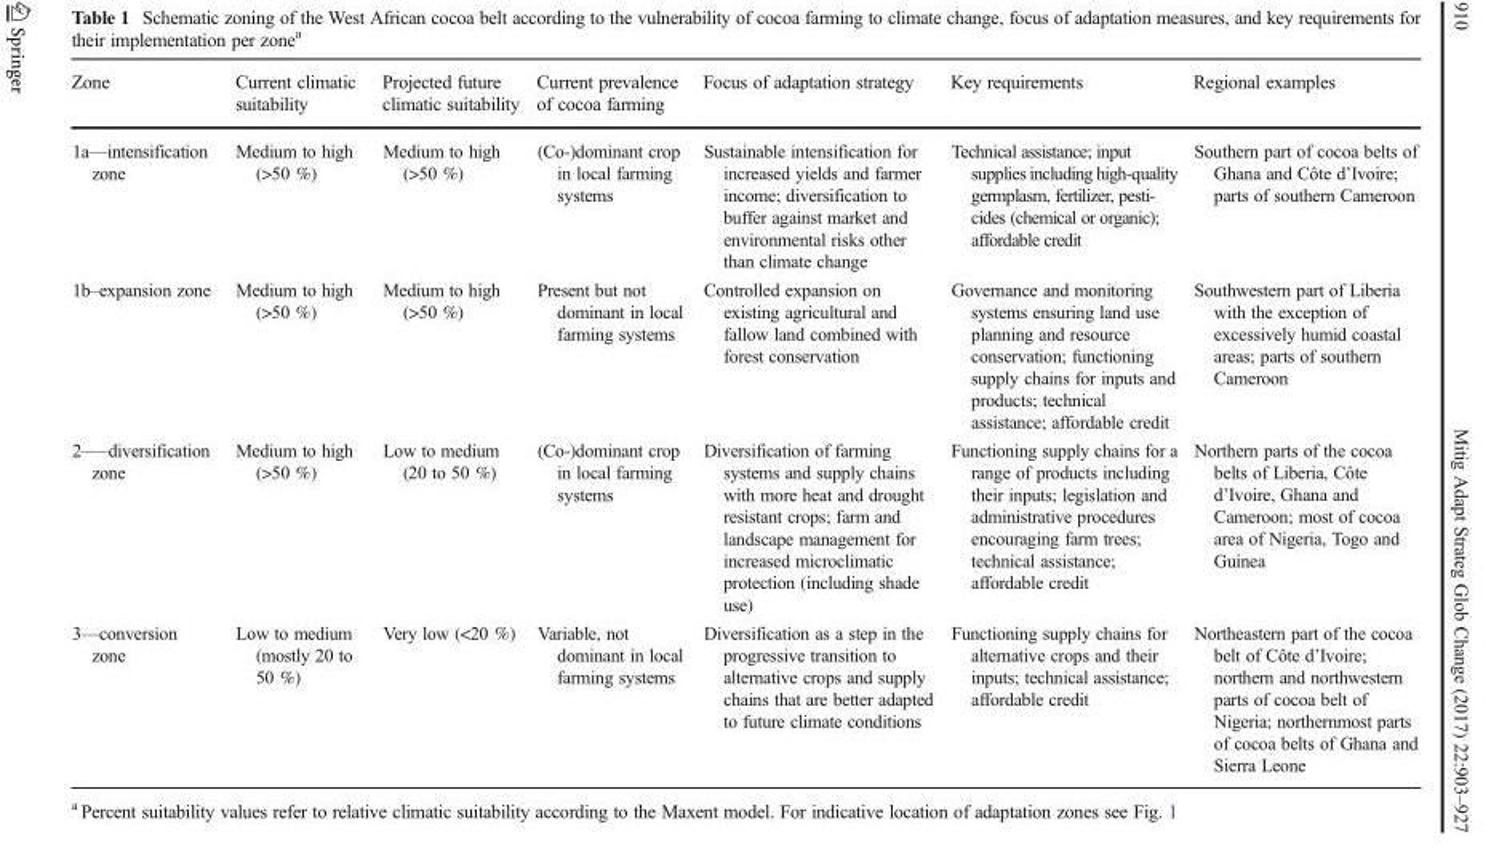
<table><thead><tr><td>Zone</td><td>Current climatic suitability</td><td>Projected future climatic suitability</td><td>Current prevalence of cocoa farming</td><td>Focus of adaptation strategy</td><td>Key requirements</td><td>Regional examples</td></tr></thead><tbody><tr><td>1a—intensification zone</td><td>Medium to high (&gt;50 %)</td><td>Medium to high (&gt;50 %)</td><td>(Co-)dominant crop in local farming systems</td><td>Sustainable intensification for increased yields and farmer income; diversification to buffer against market and environmental risks other than climate change</td><td>Technical assistance; input supplies including high-quality germplasm, fertilizer, pesti- cides (chemical or organic); affordable credit</td><td>Southern part of cocoa belts of Ghana and Côte d’Ivoire; parts of southern Cameroon</td></tr><tr><td>1b–expansion zone</td><td>Medium to high (&gt;50 %)</td><td>Medium to high (&gt;50 %)</td><td>Present but not dominant in local farming systems</td><td>Controlled expansion on existing agricultural and fallow land combined with forest conservation</td><td>Governance and monitoring systems ensuring land use planning and resource conservation; functioning supply chains for inputs and products; technical assistance; affordable credit</td><td>Southwestern part of Liberia with the exception of excessively humid coastal areas; parts of southern Cameroon</td></tr><tr><td>2–—diversification zone</td><td>Medium to high (&gt;50 %)</td><td>Low to medium (20 to 50 %)</td><td>(Co-)dominant crop in local farming systems</td><td>Diversification of farming systems and supply chains with more heat and drought resistant crops; farm and landscape management for increased microclimatic protection (including shade use)</td><td>Functioning supply chains for a range of products including their inputs; legislation and administrative procedures encouraging farm trees; technical assistance; affordable credit</td><td>Northern parts of the cocoa belts of Liberia, Côte d’Ivoire, Ghana and Cameroon; most of cocoa area of Nigeria, Togo and Guinea</td></tr><tr><td>3—conversion zone</td><td>Low to medium (mostly 20 to 50 %)</td><td>Very low (&lt;20 %)</td><td>Variable, not dominant in local farming systems</td><td>Diversification as a step in the progressive transition to alternative crops and supply chains that are better adapted to future climate conditions</td><td>Functioning supply chains for alternative crops and their inputs; technical assistance; affordable credit</td><td>Northeastern part of the cocoa belt of Côte d’Ivoire; northern and northwestern parts of cocoa belt of Nigeria; northernmost parts of cocoa belts of Ghana and Sierra Leone</td></tr></tbody></table>